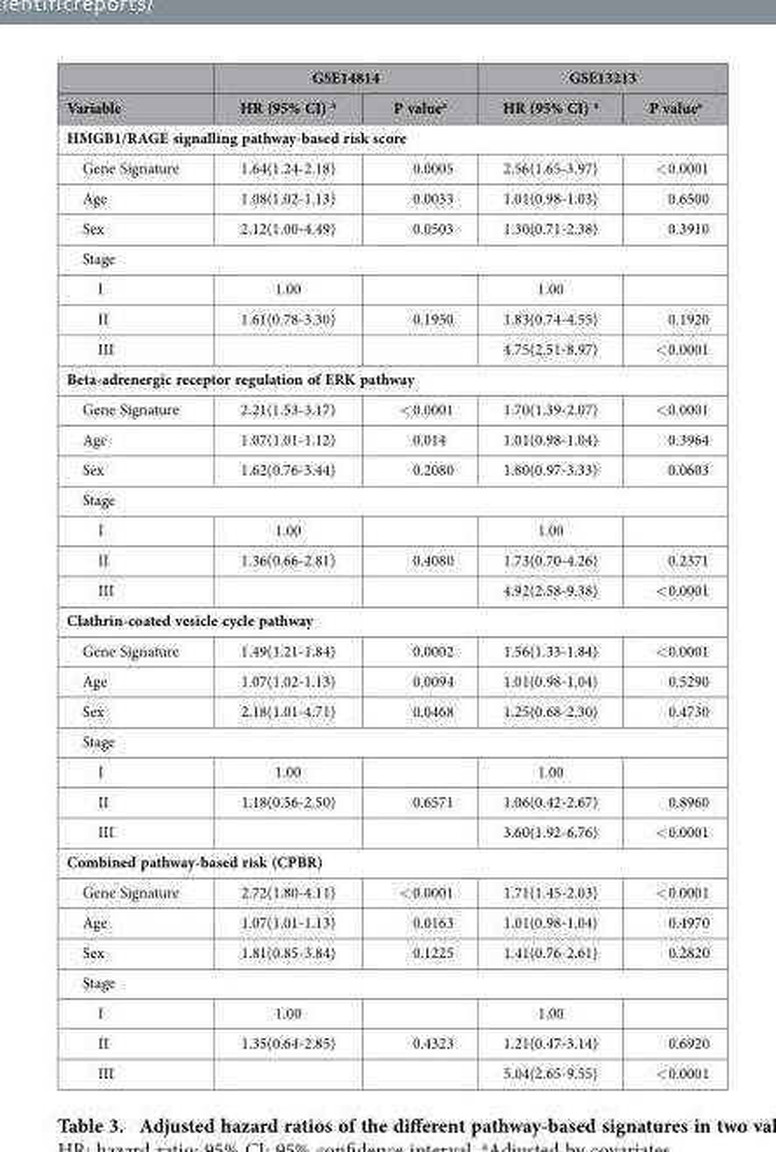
<table><thead><tr><td rowspan="2">Variable</td><td colspan="2">GSE14814</td><td colspan="2">GSE13213</td></tr><tr><td>HR (95% CI) a</td><td>P value<sup>a</sup></td><td>HR (95% CI) <sup>a</sup></td><td>P value<sup>a</sup></td></tr></thead><tbody><tr><td colspan="5">HMGB1/RAGE signalling pathway-based risk score</td></tr><tr><td>Gene Signature</td><td>1.64(1.24-2.18)</td><td>0.0005</td><td>2.56(1.65-3.97)</td><td>&lt; 0.0001</td></tr><tr><td>Age</td><td>1.08(1.02-1.13)</td><td>0.0033</td><td>1.01(0.98-1.03)</td><td>0.6500</td></tr><tr><td>Sex</td><td>2.12(1.00-4.49)</td><td>0.0503</td><td>1.30(0.71-2.38)</td><td>0.3910</td></tr><tr><td colspan="5">Stage</td></tr><tr><td>I</td><td>1.00</td><td></td><td>1.00</td><td></td></tr><tr><td>II</td><td>1.61(0.78-3.30)</td><td>0.1950</td><td>1.83(0.74-4.55)</td><td>0.1920</td></tr><tr><td>III</td><td></td><td></td><td>4.75(2.51-8.97)</td><td>&lt; 0.0001</td></tr><tr><td colspan="5">Beta-adrenergic receptor regulation of ERK pathway</td></tr><tr><td>Gene Signature</td><td>2.21(1.53-3.17)</td><td>&lt; 0.0001</td><td>1.70(1.39-2.07)</td><td>&lt; 0.0001</td></tr><tr><td>Age</td><td>1.07(1.01-1.12)</td><td>0.014</td><td>1.01(0.98-1.04)</td><td>0.3964</td></tr><tr><td>Sex</td><td>1.62(0.76-3.44)</td><td>0.2080</td><td>1.80(0.97-3.33)</td><td>0.0603</td></tr><tr><td colspan="5">Stage</td></tr><tr><td>I</td><td>1.00</td><td></td><td>1.00</td><td></td></tr><tr><td>II</td><td>1.36(0.66-2.81)</td><td>0.4080</td><td>1.73(0.70-4.26)</td><td>0.2371</td></tr><tr><td>III</td><td></td><td></td><td>4.92(2.58-9.38)</td><td>&lt; 0.0001</td></tr><tr><td colspan="5">Clathrin-coated vesicle cycle pathway</td></tr><tr><td>Gene Signature</td><td>1.49(1.21-1.84)</td><td>0.0002</td><td>1.56(1.33-1.84)</td><td>&lt; 0.0001</td></tr><tr><td>Age</td><td>1.07(1.02-1.13)</td><td>0.0094</td><td>1.01(0.98-1.04)</td><td>0.5290</td></tr><tr><td>Sex</td><td>2.18(1.01-4.71)</td><td>0.0468</td><td>1.25(0.68-2.30)</td><td>0.4730</td></tr><tr><td colspan="5">Stage</td></tr><tr><td>I</td><td>1.00</td><td></td><td>1.00</td><td></td></tr><tr><td>II</td><td>1.18(0.56-2.50)</td><td>0.6571</td><td>1.06(0.42-2.67)</td><td>0.8960</td></tr><tr><td>III</td><td></td><td></td><td>3.60(1.92-6.76)</td><td>&lt; 0.0001</td></tr><tr><td colspan="5">Combined pathway-based risk (CPBR)</td></tr><tr><td>Gene Signature</td><td>2.72(1.80-4.11)</td><td>&lt; 0.0001</td><td>1.71(1.45-2.03)</td><td>&lt; 0.0001</td></tr><tr><td>Age</td><td>1.07(1.01-1.13)</td><td>0.0163</td><td>1.01(0.98-1.04)</td><td>0.4970</td></tr><tr><td>Sex</td><td>1.81(0.85-3.84)</td><td>0.1225</td><td>1.41(0.76-2.61)</td><td>0.2820</td></tr><tr><td colspan="5">Stage</td></tr><tr><td>I</td><td>1.00</td><td></td><td>1.00</td><td></td></tr><tr><td>II</td><td>1.35(0.64-2.85)</td><td>0.4323</td><td>1.21(0.47-3.14)</td><td>0.6920</td></tr><tr><td>III</td><td></td><td></td><td>5.04(2.65-9.55)</td><td>&lt; 0.0001</td></tr></tbody></table>